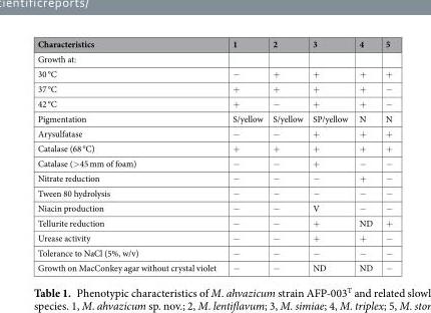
<table><thead><tr><td>Characteristics</td><td>1</td><td>2</td><td>3</td><td>4</td><td>5</td></tr></thead><tbody><tr><td colspan="6">Growth at:</td></tr><tr><td>30 °C</td><td>−</td><td>+</td><td>+</td><td>+</td><td>+</td></tr><tr><td>37 °C</td><td>+</td><td>+</td><td>+</td><td>+</td><td>−</td></tr><tr><td>42 °C</td><td>+</td><td>−</td><td>+</td><td>+</td><td>−</td></tr><tr><td>Pigmentation</td><td>S/yellow</td><td>S/yellow</td><td>SP/yellow</td><td>N</td><td>N</td></tr><tr><td>Arysulfatase</td><td>−</td><td>−</td><td>+</td><td>+</td><td>+</td></tr><tr><td>Catalase (68 °C)</td><td>+</td><td>+</td><td>+</td><td>+</td><td>+</td></tr><tr><td>Catalase (&gt;45 mm of foam)</td><td>−</td><td>−</td><td>+</td><td>−</td><td>−</td></tr><tr><td>Nitrate reduction</td><td>−</td><td>−</td><td>−</td><td>+</td><td>−</td></tr><tr><td>Tween 80 hydrolysis</td><td>−</td><td>−</td><td>−</td><td>−</td><td>−</td></tr><tr><td>Niacin production</td><td>−</td><td>−</td><td>V</td><td>−</td><td>−</td></tr><tr><td>Tellurite reduction</td><td>−</td><td>−</td><td>+</td><td>ND</td><td>+</td></tr><tr><td>Urease activity</td><td>−</td><td>−</td><td>+</td><td>+</td><td>−</td></tr><tr><td>Tolerance to NaCl (5%, w/v)</td><td>−</td><td>−</td><td>−</td><td>−</td><td>−</td></tr><tr><td>Growth on MacConkey agar without crystal violet</td><td>−</td><td>−</td><td>ND</td><td>ND</td><td>−</td></tr></tbody></table>